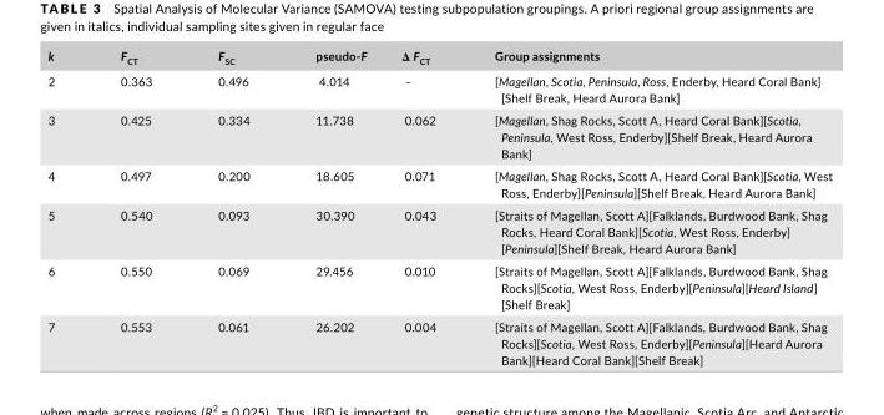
<table><thead><tr><td>k</td><td>F<sub>CT</sub></td><td>F<sub>SC</sub></td><td>pseudo‐F</td><td>Δ F<sub>CT</sub></td><td>Group assignments</td></tr></thead><tbody><tr><td>2</td><td>0.363</td><td>0.496</td><td>4.014</td><td>–</td><td>[Magellan, Scotia, Peninsula, Ross, Enderby, Heard Coral Bank] [Shelf Break, Heard Aurora Bank]</td></tr><tr><td>3</td><td>0.425</td><td>0.334</td><td>11.738</td><td>0.062</td><td>[Magellan, Shag Rocks, Scott A, Heard Coral Bank][Scotia, Peninsula, West Ross, Enderby][Shelf Break, Heard Aurora Bank]</td></tr><tr><td>4</td><td>0.497</td><td>0.200</td><td>18.605</td><td>0.071</td><td>[Magellan, Shag Rocks, Scott A, Heard Coral Bank][Scotia, West Ross, Enderby][Peninsula][Shelf Break, Heard Aurora Bank]</td></tr><tr><td>5</td><td>0.540</td><td>0.093</td><td>30.390</td><td>0.043</td><td>[Straits of Magellan, Scott A][Falklands, Burdwood Bank, Shag Rocks, Heard Coral Bank][Scotia, West Ross, Enderby] [Peninsula][Shelf Break, Heard Aurora Bank]</td></tr><tr><td>6</td><td>0.550</td><td>0.069</td><td>29.456</td><td>0.010</td><td>[Straits of Magellan, Scott A][Falklands, Burdwood Bank, Shag Rocks][Scotia, West Ross, Enderby][Peninsula][Heard Island] [Shelf Break]</td></tr><tr><td>7</td><td>0.553</td><td>0.061</td><td>26.202</td><td>0.004</td><td>[Straits of Magellan, Scott A][Falklands, Burdwood Bank, Shag Rocks][Scotia, West Ross, Enderby][Peninsula][Heard Aurora Bank][Heard Coral Bank][Shelf Break]</td></tr></tbody></table>